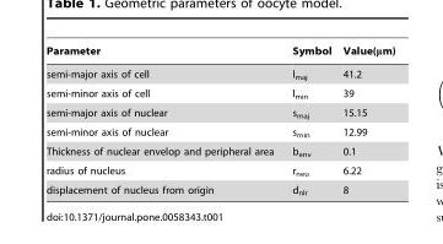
<table><thead><tr><td>Parameter</td><td>Symbol</td><td>Value(μm)</td></tr></thead><tbody><tr><td>semi-major axis of cell</td><td>l<sub>maj</sub></td><td>41.2</td></tr><tr><td>semi-minor axis of cell</td><td>l<sub>min</sub></td><td>39</td></tr><tr><td>semi-major axis of nuclear</td><td>s<sub>maj</sub></td><td>15.15</td></tr><tr><td>semi-minor axis of nuclear</td><td>s<sub>min</sub></td><td>12.99</td></tr><tr><td>Thickness of nuclear envelop and peripheral area</td><td>b<sub>env</sub></td><td>0.1</td></tr><tr><td>radius of nucleus</td><td>r<sub>neu</sub></td><td>6.22</td></tr><tr><td>displacement of nucleus from origin</td><td>d<sub>nlr</sub></td><td>8</td></tr></tbody></table>